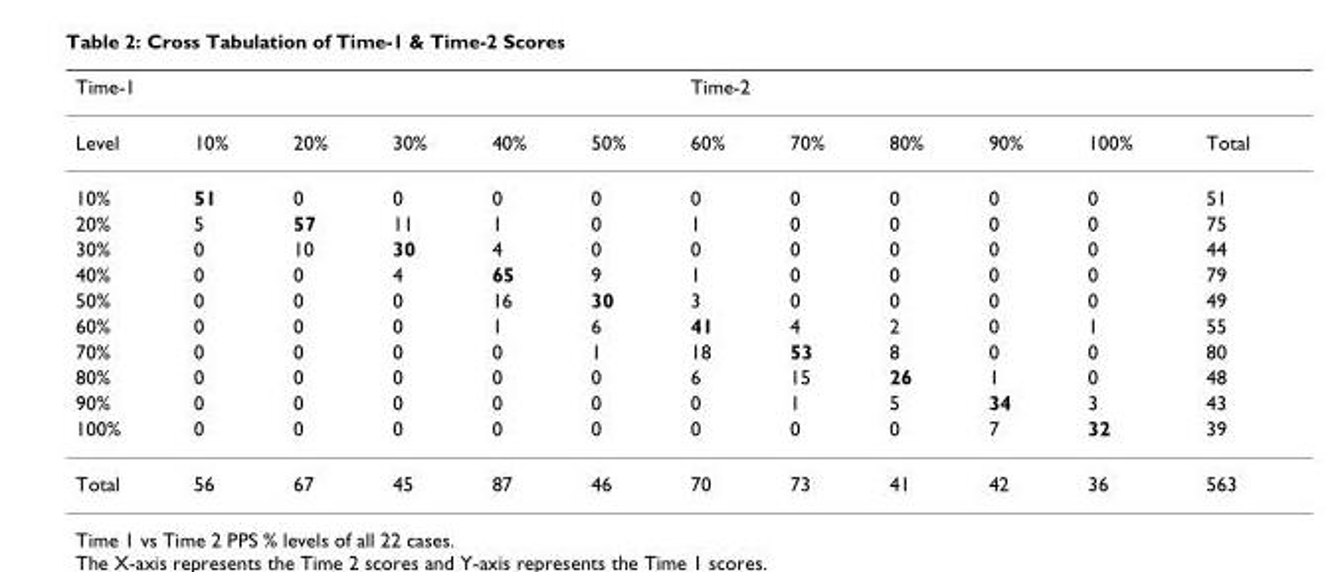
<table><thead><tr><td colspan="6">Time-1</td><td colspan="6">Time-2</td></tr><tr><td>Level</td><td>10%</td><td>20%</td><td>30%</td><td>40%</td><td>50%</td><td>60%</td><td>70%</td><td>80%</td><td>90%</td><td>100%</td><td>Total</td></tr></thead><tbody><tr><td>10%</td><td>51</td><td>0</td><td>0</td><td>0</td><td>0</td><td>0</td><td>0</td><td>0</td><td>0</td><td>0</td><td>51</td></tr><tr><td>20%</td><td>5</td><td>57</td><td>11</td><td>1</td><td>0</td><td>1</td><td>0</td><td>0</td><td>0</td><td>0</td><td>75</td></tr><tr><td>30%</td><td>0</td><td>10</td><td>30</td><td>4</td><td>0</td><td>0</td><td>0</td><td>0</td><td>0</td><td>0</td><td>44</td></tr><tr><td>40%</td><td>0</td><td>0</td><td>4</td><td>65</td><td>9</td><td>1</td><td>0</td><td>0</td><td>0</td><td>0</td><td>79</td></tr><tr><td>50%</td><td>0</td><td>0</td><td>0</td><td>16</td><td>30</td><td>3</td><td>0</td><td>0</td><td>0</td><td>0</td><td>49</td></tr><tr><td>60%</td><td>0</td><td>0</td><td>0</td><td>1</td><td>6</td><td>41</td><td>4</td><td>2</td><td>0</td><td>1</td><td>55</td></tr><tr><td>70%</td><td>0</td><td>0</td><td>0</td><td>0</td><td>1</td><td>18</td><td>53</td><td>8</td><td>0</td><td>0</td><td>80</td></tr><tr><td>80%</td><td>0</td><td>0</td><td>0</td><td>0</td><td>0</td><td>6</td><td>15</td><td>26</td><td>1</td><td>0</td><td>48</td></tr><tr><td>90%</td><td>0</td><td>0</td><td>0</td><td>0</td><td>0</td><td>0</td><td>1</td><td>5</td><td>34</td><td>3</td><td>43</td></tr><tr><td>100%</td><td>0</td><td>0</td><td>0</td><td>0</td><td>0</td><td>0</td><td>0</td><td>0</td><td>7</td><td>32</td><td>39</td></tr><tr><td>Total</td><td>56</td><td>67</td><td>45</td><td>87</td><td>46</td><td>70</td><td>73</td><td>41</td><td>42</td><td>36</td><td>563</td></tr></tbody></table>